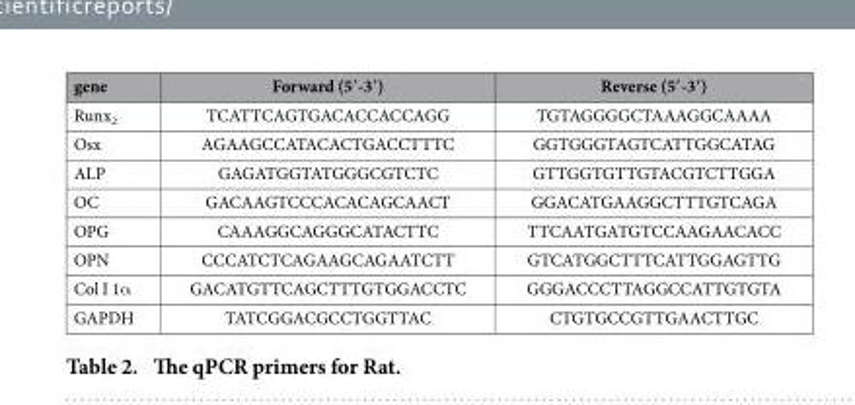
<table><thead><tr><td>gene</td><td>Forward (5′-3′)</td><td>Reverse (5′-3′)</td></tr></thead><tbody><tr><td>Runx<sub>2</sub></td><td>TCATTCAGTGACACCACCAGG</td><td>TGTAGGGGCTAAAGGCAAAA</td></tr><tr><td>Osx</td><td>AGAAGCCATACACTGACCTTTC</td><td>GGTGGGTAGTCATTGGCATAG</td></tr><tr><td>ALP</td><td>GAGATGGTATGGGCGTCTC</td><td>GTTGGTGTTGTACGTCTTGGA</td></tr><tr><td>OC</td><td>GACAAGTCCCACACAGCAACT</td><td>GGACATGAAGGCTTTGTCAGA</td></tr><tr><td>OPG</td><td>CAAAGGCAGGGCATACTTC</td><td>TTCAATGATGTCCAAGAACACC</td></tr><tr><td>OPN</td><td>CCCATCTCAGAAGCAGAATCTT</td><td>GTCATGGCTTTCATTGGAGTTG</td></tr><tr><td>Col I 1α</td><td>GACATGTTCAGCTTTGTGGACCTC</td><td>GGGACCCTTAGGCCATTGTGTA</td></tr><tr><td>GAPDH</td><td>TATCGGACGCCTGGTTAC</td><td>CTGTGCCGTTGAACTTGC</td></tr></tbody></table>